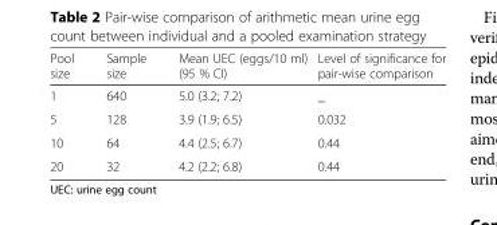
<table><thead><tr><td>Pool size</td><td>Sample size</td><td>Mean UEC (eggs/10 ml) (95 % CI)</td><td>Level of significance for pair-wise comparison</td></tr></thead><tbody><tr><td>1</td><td>640</td><td>5.0 (3.2; 7.2)</td><td>_</td></tr><tr><td>5</td><td>128</td><td>3.9 (1.9; 6.5)</td><td>0.032</td></tr><tr><td>10</td><td>64</td><td>4.4 (2.5; 6.7)</td><td>0.44</td></tr><tr><td>20</td><td>32</td><td>4.2 (2.2; 6.8)</td><td>0.44</td></tr></tbody></table>